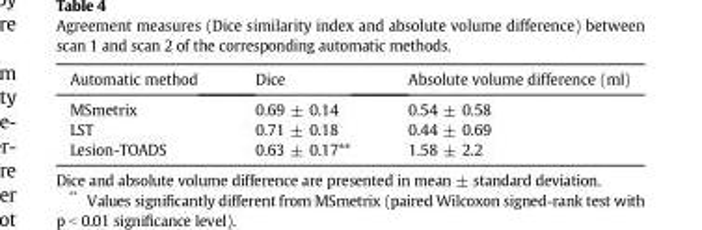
<table><thead><tr><td>Automatic method</td><td>Dice</td><td>Absolute volume difference (ml)</td></tr></thead><tbody><tr><td>MSmetrix</td><td>0.69 ± 0.14</td><td>0.54 ± 0.58</td></tr><tr><td>LST</td><td>0.71 ± 0.18</td><td>0.44 ± 0.69</td></tr><tr><td>Lesion-TOADS</td><td>0.63 ± 0.17**</td><td>1.58 ± 2.2</td></tr></tbody></table>